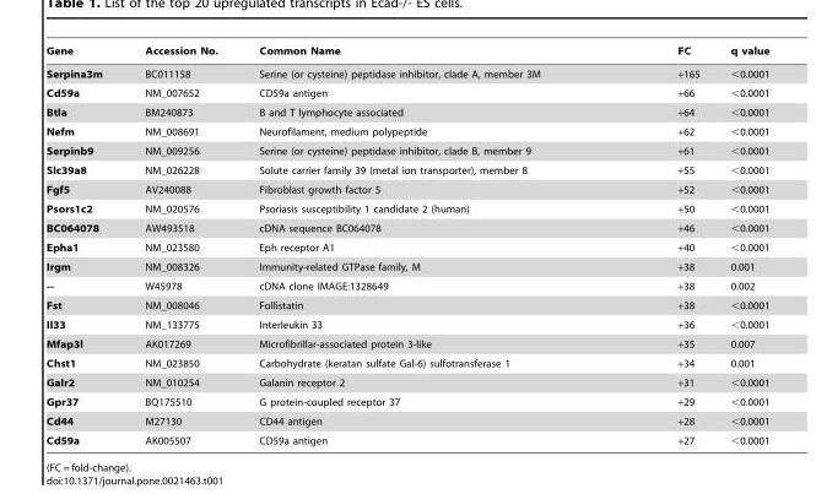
<table><thead><tr><td>Gene</td><td>Accession No.</td><td>Common Name</td><td>FC</td><td>q value</td></tr></thead><tbody><tr><td>Serpina3m</td><td>BC011158</td><td>Serine (or cysteine) peptidase inhibitor, clade A, member 3M</td><td>+165</td><td>&lt;0.0001</td></tr><tr><td>Cd59a</td><td>NM_007652</td><td>CD59a antigen</td><td>+66</td><td>&lt;0.0001</td></tr><tr><td>Btla</td><td>BM240873</td><td>B and T lymphocyte associated</td><td>+64</td><td>&lt;0.0001</td></tr><tr><td>Nefm</td><td>NM_008691</td><td>Neurofilament, medium polypeptide</td><td>+62</td><td>&lt;0.0001</td></tr><tr><td>Serpinb9</td><td>NM_009256</td><td>Serine (or cysteine) peptidase inhibitor, clade B, member 9</td><td>+61</td><td>&lt;0.0001</td></tr><tr><td>Slc39a8</td><td>NM_026228</td><td>Solute carrier family 39 (metal ion transporter), member 8</td><td>+55</td><td>&lt;0.0001</td></tr><tr><td>Fgf5</td><td>AV240088</td><td>Fibroblast growth factor 5</td><td>+52</td><td>&lt;0.0001</td></tr><tr><td>Psors1c2</td><td>NM_020576</td><td>Psoriasis susceptibility 1 candidate 2 (human)</td><td>+50</td><td>&lt;0.0001</td></tr><tr><td>BC064078</td><td>AW493518</td><td>cDNA sequence BC064078</td><td>+46</td><td>&lt;0.0001</td></tr><tr><td>Epha1</td><td>NM_023580</td><td>Eph receptor A1</td><td>+40</td><td>&lt;0.0001</td></tr><tr><td>Irgm</td><td>NM_008326</td><td>Immunity-related GTPase family, M</td><td>+38</td><td>0.001</td></tr><tr><td>--</td><td>W45978</td><td>cDNA clone IMAGE:1328649</td><td>+38</td><td>0.002</td></tr><tr><td>Fst</td><td>NM_008046</td><td>Follistatin</td><td>+38</td><td>&lt;0.0001</td></tr><tr><td>Il33</td><td>NM_133775</td><td>Interleukin 33</td><td>+36</td><td>&lt;0.0001</td></tr><tr><td>Mfap3l</td><td>AK017269</td><td>Microfibrillar-associated protein 3-like</td><td>+35</td><td>0.007</td></tr><tr><td>Chst1</td><td>NM_023850</td><td>Carbohydrate (keratan sulfate Gal-6) sulfotransferase 1</td><td>+34</td><td>0.001</td></tr><tr><td>Galr2</td><td>NM_010254</td><td>Galanin receptor 2</td><td>+31</td><td>&lt;0.0001</td></tr><tr><td>Gpr37</td><td>BQ175510</td><td>G protein-coupled receptor 37</td><td>+29</td><td>&lt;0.0001</td></tr><tr><td>Cd44</td><td>M27130</td><td>CD44 antigen</td><td>+28</td><td>&lt;0.0001</td></tr><tr><td>Cd59a</td><td>AK005507</td><td>CD59a antigen</td><td>+27</td><td>&lt;0.0001</td></tr></tbody></table>